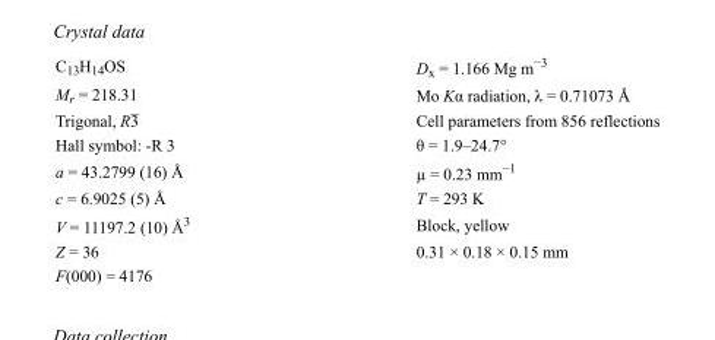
<table><tbody><tr><td>C<sub>13</sub>H<sub>14</sub>OS</td><td>D<sub>x</sub> = 1.166 Mg m<sup>−3</sup></td></tr><tr><td>M<sub>r</sub> = 218.31</td><td>Mo Kα radiation, λ = 0.71073 Å</td></tr><tr><td>Trigonal, R3</td><td>Cell parameters from 856 reflections</td></tr><tr><td>Hall symbol: -R 3</td><td>θ = 1.9–24.7°</td></tr><tr><td>a = 43.2799 (16) Å</td><td>µ = 0.23 mm<sup>−1</sup></td></tr><tr><td>c = 6.9025 (5) Å</td><td>T = 293 K</td></tr><tr><td>V = 11197.2 (10) Å<sup>3</sup></td><td>Block, yellow</td></tr><tr><td>Z = 36</td><td>0.31 × 0.18 × 0.15 mm</td></tr><tr><td>F(000) = 4176</td><td></td></tr></tbody></table>